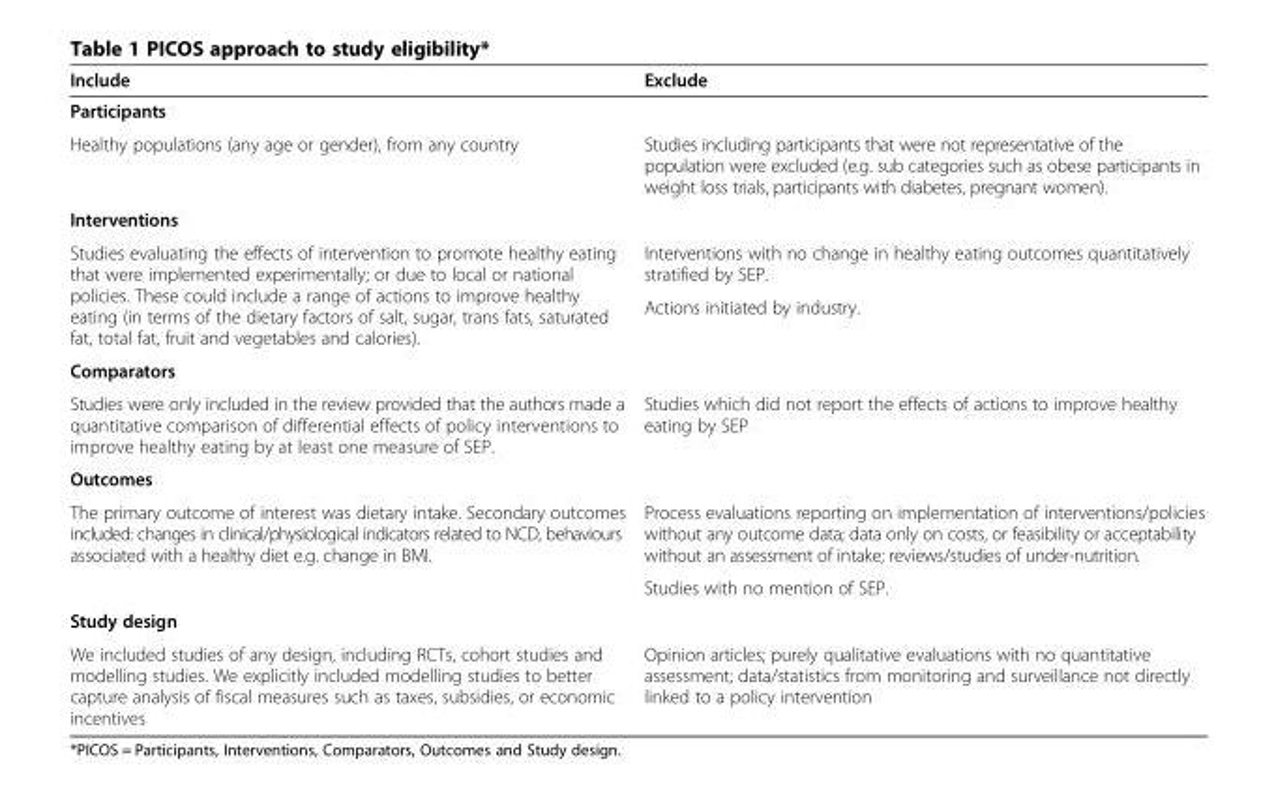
<table><thead><tr><td>Include</td><td>Exclude</td></tr></thead><tbody><tr><td colspan="2">Participants</td></tr><tr><td>Healthy populations (any age or gender), from any country</td><td>Studies including participants that were not representative of the population were excluded (e.g. sub categories such as obese participants in weight loss trials, participants with diabetes, pregnant women).</td></tr><tr><td colspan="2">Interventions</td></tr><tr><td rowspan="2">Studies evaluating the effects of intervention to promote healthy eating that were implemented experimentally; or due to local or national policies. These could include a range of actions to improve healthy eating (in terms of the dietary factors of salt, sugar, trans fats, saturated fat, total fat, fruit and vegetables and calories).</td><td>Interventions with no change in healthy eating outcomes quantitatively stratified by SEP.</td></tr><tr><td>Actions initiated by industry.</td></tr><tr><td colspan="2">Comparators</td></tr><tr><td>Studies were only included in the review provided that the authors made a quantitative comparison of differential effects of policy interventions to improve healthy eating by at least one measure of SEP.</td><td>Studies which did not report the effects of actions to improve healthy eating by SEP</td></tr><tr><td colspan="2">Outcomes</td></tr><tr><td rowspan="2">The primary outcome of interest was dietary intake. Secondary outcomes included: changes in clinical/physiological indicators related to NCD, behaviours associated with a healthy diet e.g. change in BMI.</td><td>Process evaluations reporting on implementation of interventions/policies without any outcome data; data only on costs, or feasibility or acceptability without an assessment of intake; reviews/studies of under-nutrition.</td></tr><tr><td>Studies with no mention of SEP.</td></tr><tr><td colspan="2">Study design</td></tr><tr><td>We included studies of any design, including RCTs, cohort studies and modelling studies. We explicitly included modelling studies to better capture analysis of fiscal measures such as taxes, subsidies, or economic incentives</td><td>Opinion articles; purely qualitative evaluations with no quantitative assessment; data/statistics from monitoring and surveillance not directly linked to a policy intervention</td></tr></tbody></table>